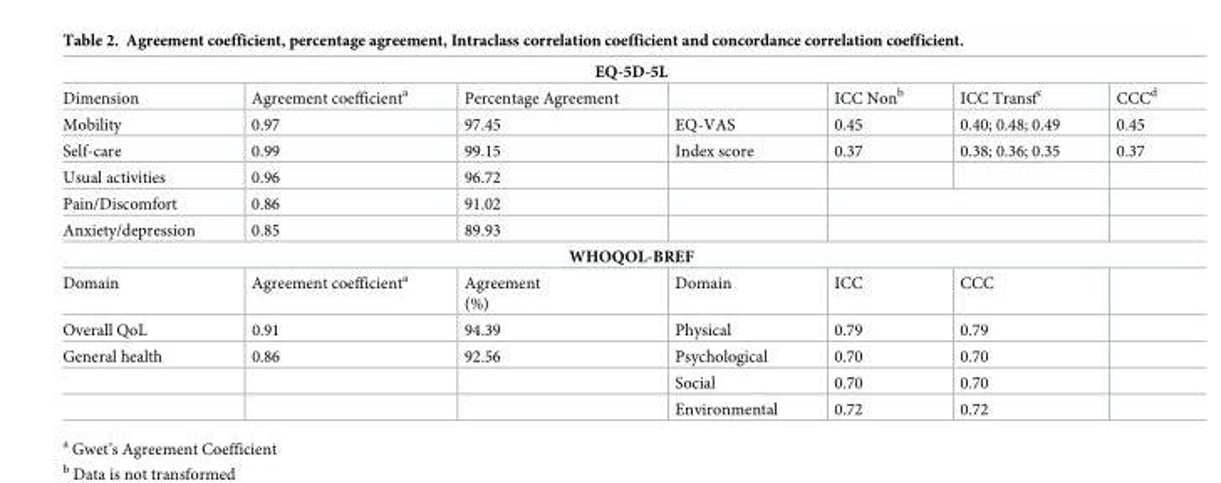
<table><tbody><tr><td colspan="7">EQ-5D-5L</td></tr><tr><td>Dimension</td><td>Agreement coefficient<sup>a</sup></td><td>Percentage Agreement</td><td></td><td>ICC Non<sup>b</sup></td><td>ICC Transf<sup>c</sup></td><td>CCC<sup>d</sup></td></tr><tr><td>Mobility</td><td>0.97</td><td>97.45</td><td>EQ-VAS</td><td>0.45</td><td>0.40; 0.48; 0.49</td><td>0.45</td></tr><tr><td>Self-care</td><td>0.99</td><td>99.15</td><td>Index score</td><td>0.37</td><td>0.38; 0.36; 0.35</td><td>0.37</td></tr><tr><td>Usual activities</td><td>0.96</td><td>96.72</td><td></td><td></td><td></td><td></td></tr><tr><td>Pain/Discomfort</td><td>0.86</td><td>91.02</td><td></td><td colspan="2"></td><td></td></tr><tr><td>Anxiety/depression</td><td>0.85</td><td>89.93</td><td></td><td colspan="2"></td><td></td></tr><tr><td colspan="7">WHOQOL-BREF</td></tr><tr><td>Domain</td><td>Agreement coefficient<sup>a</sup></td><td>Agreement (%)</td><td>Domain</td><td>ICC</td><td>CCC</td><td></td></tr><tr><td>Overall QoL</td><td>0.91</td><td>94.39</td><td>Physical</td><td>0.79</td><td>0.79</td><td></td></tr><tr><td rowspan="3">General health</td><td>0.86</td><td>92.56</td><td>Psychological</td><td>0.70</td><td>0.70</td><td></td></tr><tr><td></td><td></td><td>Social</td><td>0.70</td><td>0.70</td><td></td></tr><tr><td></td><td></td><td>Environmental</td><td>0.72</td><td>0.72</td><td></td></tr></tbody></table>